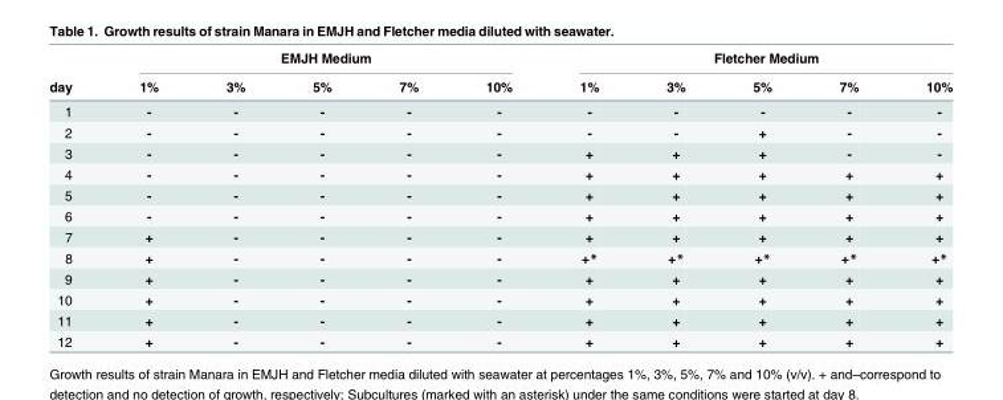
<table><thead><tr><td rowspan="2">day</td><td colspan="5">EMJH Medium</td><td colspan="5">Fletcher Medium</td></tr><tr><td>1%</td><td>3%</td><td>5%</td><td>7%</td><td>10%</td><td>1%</td><td>3%</td><td>5%</td><td>7%</td><td>10%</td></tr></thead><tbody><tr><td>1</td><td>-</td><td>-</td><td>-</td><td>-</td><td>-</td><td>-</td><td>-</td><td>-</td><td>-</td><td>-</td></tr><tr><td>2</td><td>-</td><td>-</td><td>-</td><td>-</td><td>-</td><td>-</td><td>-</td><td>+</td><td>-</td><td>-</td></tr><tr><td>3</td><td>-</td><td>-</td><td>-</td><td>-</td><td>-</td><td>+</td><td>+</td><td>+</td><td>-</td><td>-</td></tr><tr><td>4</td><td>-</td><td>-</td><td>-</td><td>-</td><td>-</td><td>+</td><td>+</td><td>+</td><td>+</td><td>+</td></tr><tr><td>5</td><td>-</td><td>-</td><td>-</td><td>-</td><td>-</td><td>+</td><td>+</td><td>+</td><td>+</td><td>+</td></tr><tr><td>6</td><td>-</td><td>-</td><td>-</td><td>-</td><td>-</td><td>+</td><td>+</td><td>+</td><td>+</td><td>+</td></tr><tr><td>7</td><td>+</td><td>-</td><td>-</td><td>-</td><td>-</td><td>+</td><td>+</td><td>+</td><td>+</td><td>+</td></tr><tr><td>8</td><td>+</td><td>-</td><td>-</td><td>-</td><td>-</td><td>+*</td><td>+*</td><td>+*</td><td>+*</td><td>+*</td></tr><tr><td>9</td><td>+</td><td>-</td><td>-</td><td>-</td><td>-</td><td>+</td><td>+</td><td>+</td><td>+</td><td>+</td></tr><tr><td>10</td><td>+</td><td>-</td><td>-</td><td>-</td><td>-</td><td>+</td><td>+</td><td>+</td><td>+</td><td>+</td></tr><tr><td>11</td><td>+</td><td>-</td><td>-</td><td>-</td><td>-</td><td>+</td><td>+</td><td>+</td><td>+</td><td>+</td></tr><tr><td>12</td><td>+</td><td>-</td><td>-</td><td>-</td><td>-</td><td>+</td><td>+</td><td>+</td><td>+</td><td>+</td></tr></tbody></table>